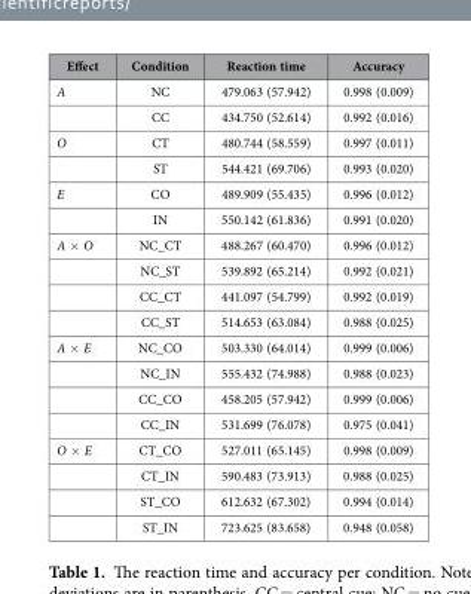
<table><thead><tr><td>Effect</td><td>Condition</td><td>Reaction time</td><td>Accuracy</td></tr></thead><tbody><tr><td rowspan="2">A</td><td>NC</td><td>479.063 (57.942)</td><td>0.998 (0.009)</td></tr><tr><td>CC</td><td>434.750 (52.614)</td><td>0.992 (0.016)</td></tr><tr><td rowspan="2">O</td><td>CT</td><td>480.744 (58.559)</td><td>0.997 (0.011)</td></tr><tr><td>ST</td><td>544.421 (69.706)</td><td>0.993 (0.020)</td></tr><tr><td rowspan="2">E</td><td>CO</td><td>489.909 (55.435)</td><td>0.996 (0.012)</td></tr><tr><td>IN</td><td>550.142 (61.836)</td><td>0.991 (0.020)</td></tr><tr><td rowspan="4">A × O</td><td>NC_CT</td><td>488.267 (60.470)</td><td>0.996 (0.012)</td></tr><tr><td>NC_ST</td><td>539.892 (65.214)</td><td>0.992 (0.021)</td></tr><tr><td>CC_CT</td><td>441.097 (54.799)</td><td>0.992 (0.019)</td></tr><tr><td>CC_ST</td><td>514.653 (63.084)</td><td>0.988 (0.025)</td></tr><tr><td rowspan="4">A × E</td><td>NC_CO</td><td>503.330 (64.014)</td><td>0.999 (0.006)</td></tr><tr><td>NC_IN</td><td>555.432 (74.988)</td><td>0.988 (0.023)</td></tr><tr><td>CC_CO</td><td>458.205 (57.942)</td><td>0.999 (0.006)</td></tr><tr><td>CC_IN</td><td>531.699 (76.078)</td><td>0.975 (0.041)</td></tr><tr><td rowspan="4">O × E</td><td>CT_CO</td><td>527.011 (65.145)</td><td>0.998 (0.009)</td></tr><tr><td>CT_IN</td><td>590.483 (73.913)</td><td>0.988 (0.025)</td></tr><tr><td>ST_CO</td><td>612.632 (67.302)</td><td>0.994 (0.014)</td></tr><tr><td>ST_IN</td><td>723.625 (83.658)</td><td>0.948 (0.058)</td></tr></tbody></table>